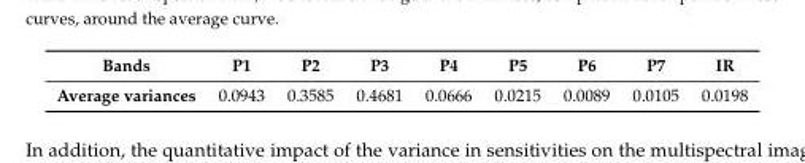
<table><thead><tr><td>Bands</td><td>P1</td><td>P2</td><td>P3</td><td>P4</td><td>P5</td><td>P6</td><td>P7</td><td>IR</td></tr></thead><tbody><tr><td>Average variances</td><td>0.0943</td><td>0.3585</td><td>0.4681</td><td>0.0666</td><td>0.0215</td><td>0.0089</td><td>0.0105</td><td>0.0198</td></tr></tbody></table>